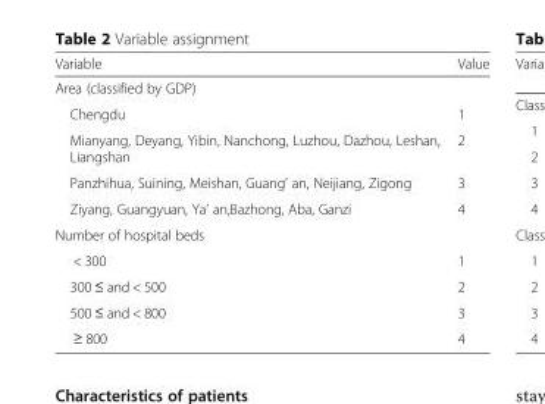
<table><thead><tr><td>Variable</td><td>Value</td></tr></thead><tbody><tr><td colspan="2">Area (classified by GDP)</td></tr><tr><td>Chengdu</td><td>1</td></tr><tr><td>Mianyang, Deyang, Yibin, Nanchong, Luzhou, Dazhou, Leshan, Liangshan</td><td>2</td></tr><tr><td>Panzhihua, Suining, Meishan, Guang’ an, Neijiang, Zigong</td><td>3</td></tr><tr><td>Ziyang, Guangyuan, Ya’ an,Bazhong, Aba, Ganzi</td><td>4</td></tr><tr><td colspan="2">Number of hospital beds</td></tr><tr><td>&lt; 300</td><td>1</td></tr><tr><td>300 ≤ and &lt; 500</td><td>2</td></tr><tr><td>500 ≤ and &lt; 800</td><td>3</td></tr><tr><td>≥ 800</td><td>4</td></tr></tbody></table>